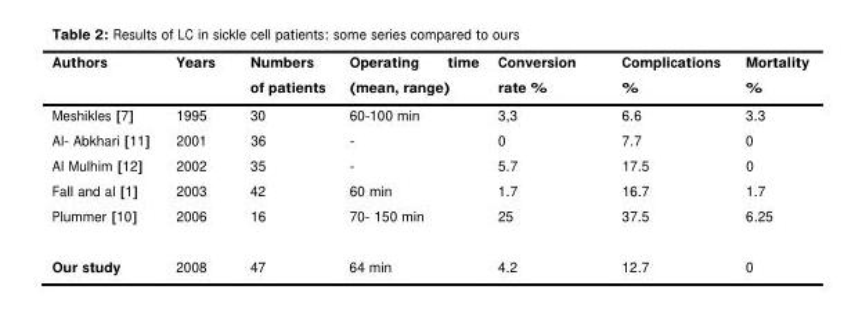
<table><thead><tr><td>Authors</td><td>Years</td><td>Numbers of patients</td><td>Operating time (mean, range)</td><td>Conversion rate %</td><td>Complications %</td><td>Mortality %</td></tr></thead><tbody><tr><td>Meshikles [7]</td><td>1995</td><td>30</td><td>60-100 min</td><td>3,3</td><td>6.6</td><td>3.3</td></tr><tr><td>Al- Abkhari [11]</td><td>2001</td><td>36</td><td>-</td><td>0</td><td>7.7</td><td>0</td></tr><tr><td>Al Mulhim [12]</td><td>2002</td><td>35</td><td>-</td><td>5.7</td><td>17.5</td><td>0</td></tr><tr><td>Fall and al [1]</td><td>2003</td><td>42</td><td>60 min</td><td>1.7</td><td>16.7</td><td>1.7</td></tr><tr><td>Plummer [10]</td><td>2006</td><td>16</td><td>70- 150 min</td><td>25</td><td>37.5</td><td>6.25</td></tr><tr><td>Our study</td><td>2008</td><td>47</td><td>64 min</td><td>4.2</td><td>12.7</td><td>0</td></tr></tbody></table>